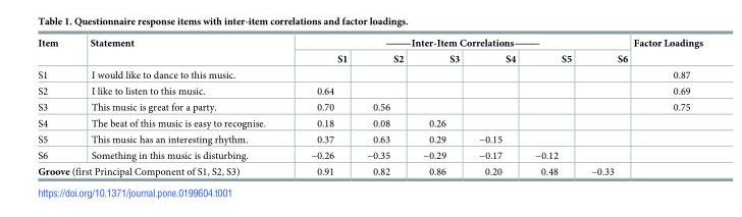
<table><thead><tr><td rowspan="2">Item</td><td rowspan="2">Statement</td><td colspan="6">———Inter-Item Correlations———</td><td rowspan="2">Factor Loadings</td></tr><tr><td>S1</td><td>S2</td><td>S3</td><td>S4</td><td>S5</td><td>S6</td></tr></thead><tbody><tr><td>S1</td><td>I would like to dance to this music.</td><td></td><td></td><td></td><td></td><td></td><td></td><td>0.87</td></tr><tr><td>S2</td><td>I like to listen to this music.</td><td>0.64</td><td></td><td></td><td></td><td></td><td></td><td>0.69</td></tr><tr><td>S3</td><td>This music is great for a party.</td><td>0.70</td><td>0.56</td><td></td><td></td><td></td><td></td><td>0.75</td></tr><tr><td>S4</td><td>The beat of this music is easy to recognise.</td><td>0.18</td><td>0.08</td><td>0.26</td><td></td><td></td><td></td><td></td></tr><tr><td>S5</td><td>This music has an interesting rhythm.</td><td>0.37</td><td>0.63</td><td>0.29</td><td>−0.15</td><td></td><td></td><td></td></tr><tr><td>S6</td><td>Something in this music is disturbing.</td><td>−0.26</td><td>−0.35</td><td>−0.29</td><td>−0.17</td><td>−0.12</td><td></td><td></td></tr><tr><td colspan="2">Groove (first Principal Component of S1, S2, S3)</td><td>0.91</td><td>0.82</td><td>0.86</td><td>0.20</td><td>0.48</td><td>−0.33</td><td></td></tr></tbody></table>